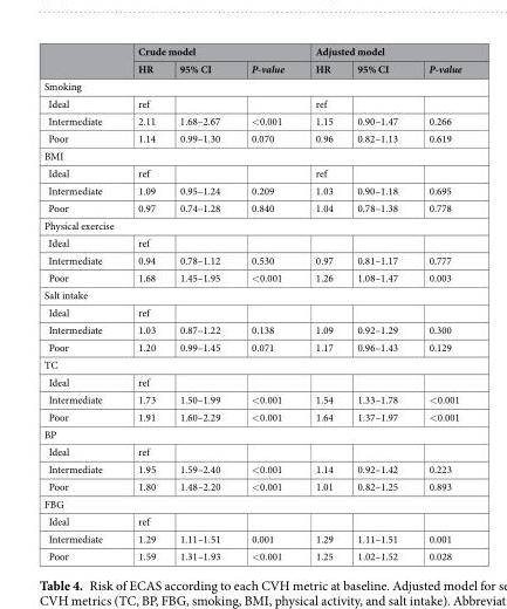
<table><thead><tr><td rowspan="2"></td><td colspan="3">Crude model</td><td colspan="3">Adjusted model</td></tr><tr><td>HR</td><td>95% CI</td><td>P-value</td><td>HR</td><td>95% CI</td><td>P-value</td></tr></thead><tbody><tr><td colspan="7">Smoking</td></tr><tr><td>Ideal</td><td>ref</td><td></td><td></td><td>ref</td><td></td><td></td></tr><tr><td>Intermediate</td><td>2.11</td><td>1.68–2.67</td><td>&lt;0.001</td><td>1.15</td><td>0.90–1.47</td><td>0.266</td></tr><tr><td>Poor</td><td>1.14</td><td>0.99–1.30</td><td>0.070</td><td>0.96</td><td>0.82–1.13</td><td>0.619</td></tr><tr><td colspan="7">BMI</td></tr><tr><td>Ideal</td><td>ref</td><td></td><td></td><td>ref</td><td></td><td></td></tr><tr><td>Intermediate</td><td>1.09</td><td>0.95–1.24</td><td>0.209</td><td>1.03</td><td>0.90–1.18</td><td>0.695</td></tr><tr><td>Poor</td><td>0.97</td><td>0.74–1.28</td><td>0.840</td><td>1.04</td><td>0.78–1.38</td><td>0.778</td></tr><tr><td colspan="7">Physical exercise</td></tr><tr><td>Ideal</td><td>ref</td><td></td><td></td><td></td><td></td><td></td></tr><tr><td>Intermediate</td><td>0.94</td><td>0.78–1.12</td><td>0.530</td><td>0.97</td><td>0.81–1.17</td><td>0.777</td></tr><tr><td>Poor</td><td>1.68</td><td>1.45–1.95</td><td>&lt;0.001</td><td>1.26</td><td>1.08–1.47</td><td>0.003</td></tr><tr><td colspan="7">Salt intake</td></tr><tr><td>Ideal</td><td>ref</td><td></td><td></td><td></td><td></td><td></td></tr><tr><td>Intermediate</td><td>1.03</td><td>0.87–1.22</td><td>0.138</td><td>1.09</td><td>0.92–1.29</td><td>0.300</td></tr><tr><td>Poor</td><td>1.20</td><td>0.99–1.45</td><td>0.071</td><td>1.17</td><td>0.96–1.43</td><td>0.129</td></tr><tr><td colspan="7">TC</td></tr><tr><td>Ideal</td><td>ref</td><td></td><td></td><td></td><td></td><td></td></tr><tr><td>Intermediate</td><td>1.73</td><td>1.50–1.99</td><td>&lt;0.001</td><td>1.54</td><td>1.33–1.78</td><td>&lt;0.001</td></tr><tr><td>Poor</td><td>1.91</td><td>1.60–2.29</td><td>&lt;0.001</td><td>1.64</td><td>1.37–1.97</td><td>&lt;0.001</td></tr><tr><td colspan="7">BP</td></tr><tr><td>Ideal</td><td>ref</td><td></td><td></td><td></td><td></td><td></td></tr><tr><td>Intermediate</td><td>1.95</td><td>1.59–2.40</td><td>&lt;0.001</td><td>1.14</td><td>0.92–1.42</td><td>0.223</td></tr><tr><td>Poor</td><td>1.80</td><td>1.48–2.20</td><td>&lt;0.001</td><td>1.01</td><td>0.82–1.25</td><td>0.893</td></tr><tr><td colspan="7">FBG</td></tr><tr><td>Ideal</td><td>ref</td><td></td><td></td><td></td><td></td><td></td></tr><tr><td>Intermediate</td><td>1.29</td><td>1.11–1.51</td><td>0.001</td><td>1.29</td><td>1.11–1.51</td><td>0.001</td></tr><tr><td>Poor</td><td>1.59</td><td>1.31–1.93</td><td>&lt;0.001</td><td>1.25</td><td>1.02–1.52</td><td>0.028</td></tr></tbody></table>